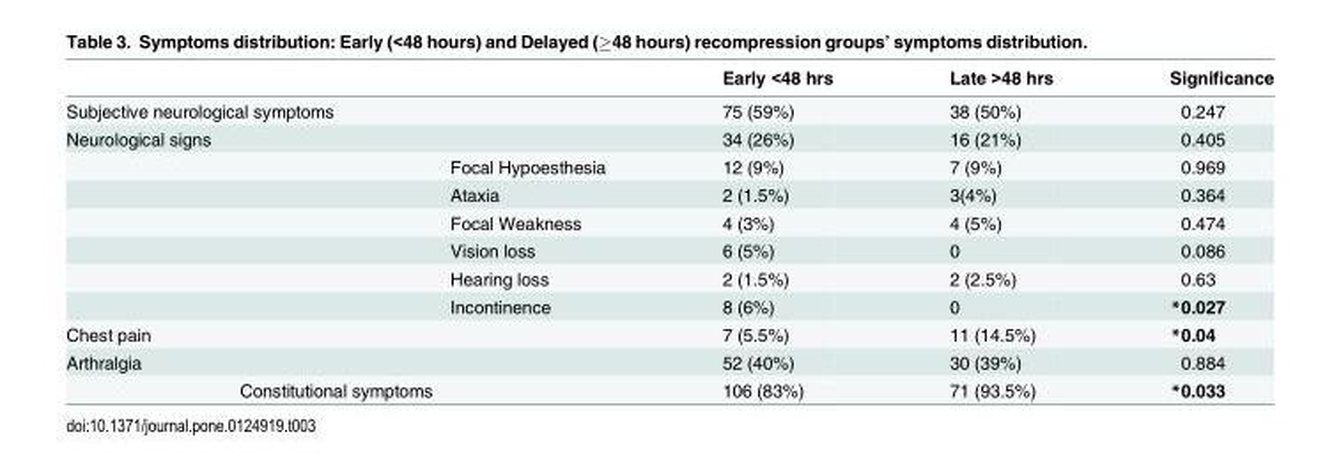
<table><thead><tr><td></td><td></td><td>Early &lt;48 hrs</td><td>Late &gt;48 hrs</td><td>Significance</td></tr></thead><tbody><tr><td>Subjective neurological symptoms</td><td></td><td>75 (59%)</td><td>38 (50%)</td><td>0.247</td></tr><tr><td rowspan="7">Neurological signs</td><td></td><td>34 (26%)</td><td>16 (21%)</td><td>0.405</td></tr><tr><td>Focal Hypoesthesia</td><td>12 (9%)</td><td>7 (9%)</td><td>0.969</td></tr><tr><td>Ataxia</td><td>2 (1.5%)</td><td>3(4%)</td><td>0.364</td></tr><tr><td>Focal Weakness</td><td>4 (3%)</td><td>4 (5%)</td><td>0.474</td></tr><tr><td>Vision loss</td><td>6 (5%)</td><td>0</td><td>0.086</td></tr><tr><td>Hearing loss</td><td>2 (1.5%)</td><td>2 (2.5%)</td><td>0.63</td></tr><tr><td>Incontinence</td><td>8 (6%)</td><td>0</td><td>*0.027</td></tr><tr><td>Chest pain</td><td></td><td>7 (5.5%)</td><td>11 (14.5%)</td><td>*0.04</td></tr><tr><td>Arthralgia</td><td></td><td>52 (40%)</td><td>30 (39%)</td><td>0.884</td></tr><tr><td colspan="2">Constitutional symptoms</td><td>106 (83%)</td><td>71 (93.5%)</td><td>*0.033</td></tr></tbody></table>